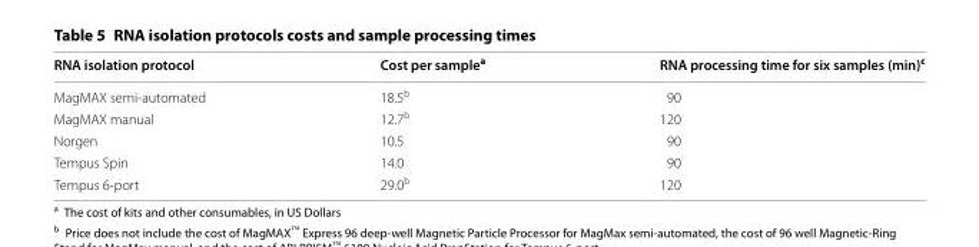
<table><thead><tr><td>RNA isolation protocol</td><td>Cost per sample<sup>a</sup></td><td>RNA processing time for six samples (min)<sup>c</sup></td></tr></thead><tbody><tr><td>MagMAX semi-automated</td><td>18.5<sup>b</sup></td><td>90</td></tr><tr><td>MagMAX manual</td><td>12.7<sup>b</sup></td><td>120</td></tr><tr><td>Norgen</td><td>10.5</td><td>90</td></tr><tr><td>Tempus Spin</td><td>14.0</td><td>90</td></tr><tr><td>Tempus 6-port</td><td>29.0<sup>b</sup></td><td>120</td></tr></tbody></table>